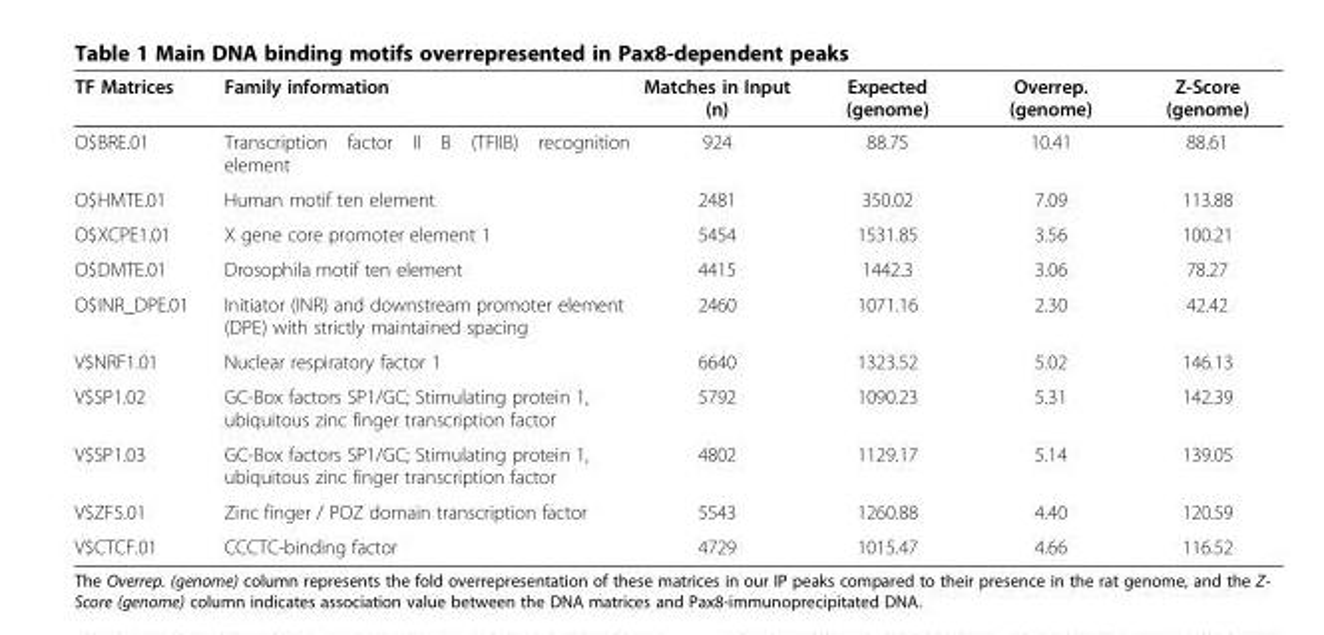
<table><thead><tr><td>TF Matrices</td><td>Family information</td><td>Matches in Input (n)</td><td>Expected (genome)</td><td>Overrep. (genome)</td><td>Z-Score (genome)</td></tr></thead><tbody><tr><td>O$BRE.01</td><td>Transcription factor II B (TFIIB) recognition element</td><td>924</td><td>88.75</td><td>10.41</td><td>88.61</td></tr><tr><td>O$HMTE.01</td><td>Human motif ten element</td><td>2481</td><td>350.02</td><td>7.09</td><td>113.88</td></tr><tr><td>O$XCPE1.01</td><td>X gene core promoter element 1</td><td>5454</td><td>1531.85</td><td>3.56</td><td>100.21</td></tr><tr><td>O$DMTE.01</td><td>Drosophila motif ten element</td><td>4415</td><td>1442.3</td><td>3.06</td><td>78.27</td></tr><tr><td>O$INR_DPE.01</td><td>Initiator (INR) and downstream promoter element (DPE) with strictly maintained spacing</td><td>2460</td><td>1071.16</td><td>2.30</td><td>42.42</td></tr><tr><td>V$NRF1.01</td><td>Nuclear respiratory factor 1</td><td>6640</td><td>1323.52</td><td>5.02</td><td>146.13</td></tr><tr><td>V$SP1.02</td><td>GC-Box factors SP1/GC; Stimulating protein 1, ubiquitous zinc finger transcription factor</td><td>5792</td><td>1090.23</td><td>5.31</td><td>142.39</td></tr><tr><td>V$SP1.03</td><td>GC-Box factors SP1/GC; Stimulating protein 1, ubiquitous zinc finger transcription factor</td><td>4802</td><td>1129.17</td><td>5.14</td><td>139.05</td></tr><tr><td>V$ZF5.01</td><td>Zinc finger / POZ domain transcription factor</td><td>5543</td><td>1260.88</td><td>4.40</td><td>120.59</td></tr><tr><td>V$CTCF.01</td><td>CCCTC-binding factor</td><td>4729</td><td>1015.47</td><td>4.66</td><td>116.52</td></tr></tbody></table>